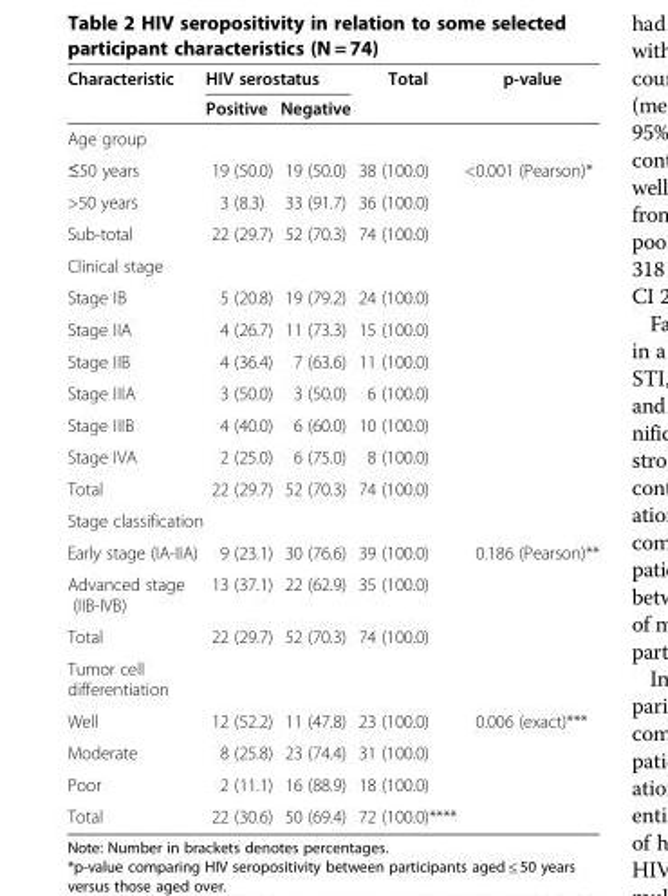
<table><thead><tr><td rowspan="2">Characteristic</td><td colspan="2">HIV serostatus</td><td rowspan="2">Total</td><td rowspan="2">p-value</td></tr><tr><td>Positive</td><td>Negative</td></tr></thead><tbody><tr><td colspan="5">Age group</td></tr><tr><td>≤50 years</td><td>19 (50.0)</td><td>19 (50.0)</td><td>38 (100.0)</td><td>&lt;0.001 (Pearson)*</td></tr><tr><td>&gt;50 years</td><td>3 (8.3)</td><td>33 (91.7)</td><td>36 (100.0)</td><td></td></tr><tr><td>Sub-total</td><td>22 (29.7)</td><td>52 (70.3)</td><td>74 (100.0)</td><td></td></tr><tr><td colspan="5">Clinical stage</td></tr><tr><td>Stage IB</td><td>5 (20.8)</td><td>19 (79.2)</td><td>24 (100.0)</td><td></td></tr><tr><td>Stage IIA</td><td>4 (26.7)</td><td>11 (73.3)</td><td>15 (100.0)</td><td></td></tr><tr><td>Stage IIB</td><td>4 (36.4)</td><td>7 (63.6)</td><td>11 (100.0)</td><td></td></tr><tr><td>Stage IIIA</td><td>3 (50.0)</td><td>3 (50.0)</td><td>6 (100.0)</td><td></td></tr><tr><td>Stage IIIB</td><td>4 (40.0)</td><td>6 (60.0)</td><td>10 (100.0)</td><td></td></tr><tr><td>Stage IVA</td><td>2 (25.0)</td><td>6 (75.0)</td><td>8 (100.0)</td><td></td></tr><tr><td>Total</td><td>22 (29.7)</td><td>52 (70.3)</td><td>74 (100.0)</td><td></td></tr><tr><td colspan="5">Stage classification</td></tr><tr><td>Early stage (IA-IIA)</td><td>9 (23.1)</td><td>30 (76.6)</td><td>39 (100.0)</td><td>0.186 (Pearson)**</td></tr><tr><td>Advanced stage (IIB-IVB)</td><td>13 (37.1)</td><td>22 (62.9)</td><td>35 (100.0)</td><td></td></tr><tr><td>Total</td><td>22 (29.7)</td><td>52 (70.3)</td><td>74 (100.0)</td><td></td></tr><tr><td colspan="5">Tumor cell differentiation</td></tr><tr><td>Well</td><td>12 (52.2)</td><td>11 (47.8)</td><td>23 (100.0)</td><td>0.006 (exact)***</td></tr><tr><td>Moderate</td><td>8 (25.8)</td><td>23 (74.4)</td><td>31 (100.0)</td><td></td></tr><tr><td>Poor</td><td>2 (11.1)</td><td>16 (88.9)</td><td>18 (100.0)</td><td></td></tr><tr><td>Total</td><td>22 (30.6)</td><td>50 (69.4)</td><td>72 (100.0)****</td><td></td></tr></tbody></table>